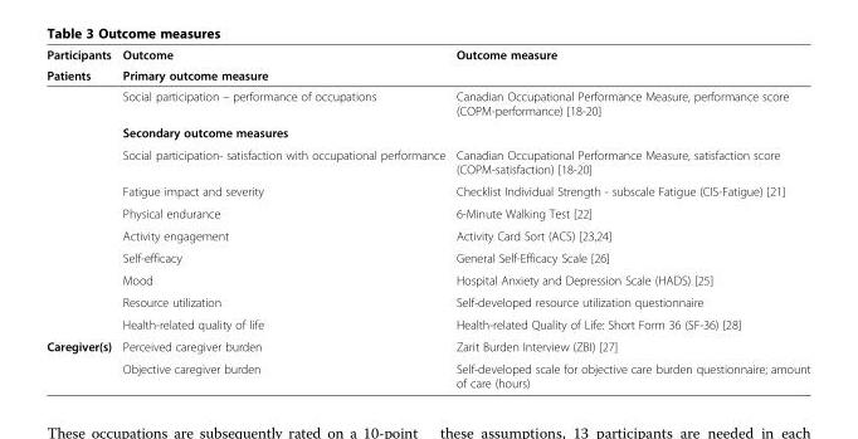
<table><thead><tr><td rowspan="2">Participants Patients</td><td rowspan="2">Outcome Primary outcome measure</td><td rowspan="2">Outcome measure</td></tr><tr></tr></thead><tbody><tr><td></td><td>Social participation – performance of occupations</td><td>Canadian Occupational Performance Measure, performance score (COPM-performance) [18-20]</td></tr><tr><td></td><td>Secondary outcome measures</td><td></td></tr><tr><td></td><td>Social participation- satisfaction with occupational performance</td><td>Canadian Occupational Performance Measure, satisfaction score (COPM-satisfaction) [18-20]</td></tr><tr><td></td><td>Fatigue impact and severity</td><td>Checklist Individual Strength - subscale Fatigue (CIS-Fatigue) [21]</td></tr><tr><td></td><td>Physical endurance</td><td>6-Minute Walking Test [22]</td></tr><tr><td></td><td>Activity engagement</td><td>Activity Card Sort (ACS) [23,24]</td></tr><tr><td></td><td>Self-efficacy</td><td>General Self-Efficacy Scale [26]</td></tr><tr><td></td><td>Mood</td><td>Hospital Anxiety and Depression Scale (HADS) [25]</td></tr><tr><td></td><td>Resource utilization</td><td>Self-developed resource utilization questionnaire</td></tr><tr><td></td><td>Health-related quality of life</td><td>Health-related Quality of Life: Short Form 36 (SF-36) [28]</td></tr><tr><td rowspan="2">Caregiver(s)</td><td>Perceived caregiver burden</td><td>Zarit Burden Interview (ZBI) [27]</td></tr><tr><td>Objective caregiver burden</td><td>Self-developed scale for objective care burden questionnaire; amount of care (hours)</td></tr></tbody></table>